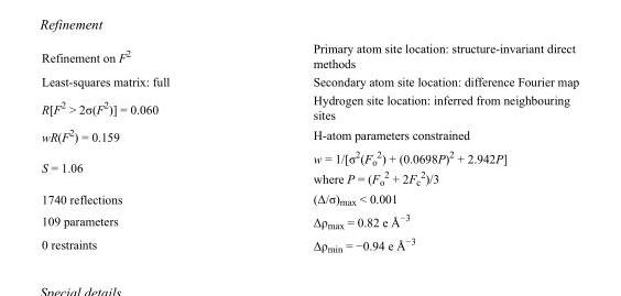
<table><tbody><tr><td>Refinement on F<sup>2</sup></td><td>Primary atom site location: structure-invariant direct methods</td></tr><tr><td>Least-squares matrix: full</td><td>Secondary atom site location: difference Fourier map</td></tr><tr><td>R[F<sup>2</sup> &gt; 2σ(F<sup>2</sup>)] = 0.060</td><td>Hydrogen site location: inferred from neighbouring sites</td></tr><tr><td>wR(F<sup>2</sup>) = 0.159</td><td>H-atom parameters constrained</td></tr><tr><td>S = 1.06</td><td>w = 1/[σ<sup>2</sup>(F<sub>o</sub> <sup>2</sup>) + (0.0698P)<sup>2</sup> + 2.942P] where P = (F<sub>o</sub> <sup>2</sup> + 2F<sub>c</sub> <sup>2</sup>)/3</td></tr><tr><td>1740 reflections</td><td>(Δ/σ)<sub>max</sub> &lt; 0.001</td></tr><tr><td>109 parameters</td><td>Δρ<sub>max</sub> = 0.82 e Å<sup>−3</sup></td></tr><tr><td>0 restraints</td><td>Δρ<sub>min</sub> = −0.94 e Å<sup>−3</sup></td></tr></tbody></table>